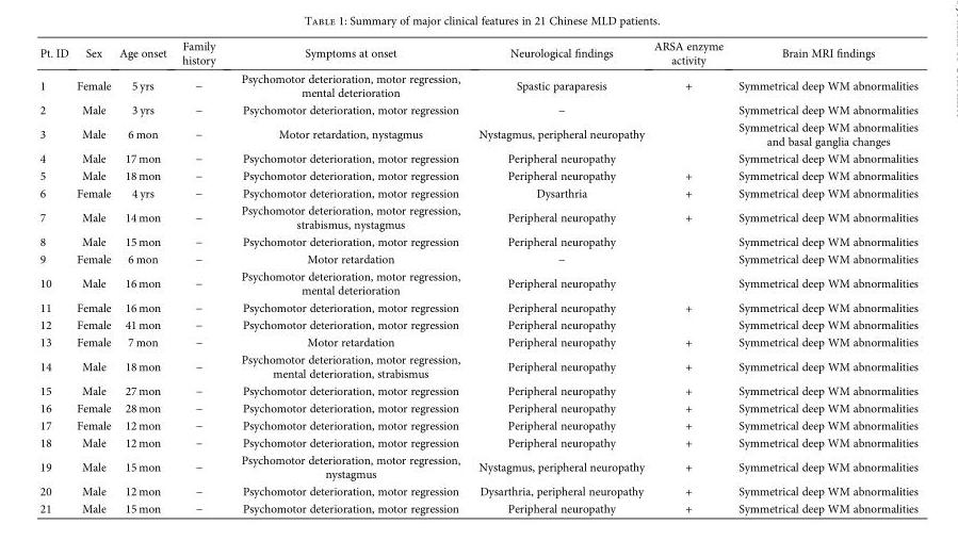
<table><thead><tr><td>Pt. ID</td><td>Sex</td><td>Age onset</td><td>Family history</td><td>Symptoms at onset</td><td>Neurological findings</td><td>ARSA enzyme activity</td><td>Brain MRI findings</td></tr></thead><tbody><tr><td>1</td><td>Female</td><td>5 yrs</td><td>−</td><td>Psychomotor deterioration, motor regression, mental deterioration</td><td>Spastic paraparesis</td><td>+</td><td>Symmetrical deep WM abnormalities</td></tr><tr><td>2</td><td>Male</td><td>3 yrs</td><td>−</td><td>Psychomotor deterioration, motor regression</td><td>−</td><td></td><td>Symmetrical deep WM abnormalities</td></tr><tr><td>3</td><td>Male</td><td>6 mon</td><td>−</td><td>Motor retardation, nystagmus</td><td>Nystagmus, peripheral neuropathy</td><td></td><td>Symmetrical deep WM abnormalities and basal ganglia changes</td></tr><tr><td>4</td><td>Male</td><td>17 mon</td><td>−</td><td>Psychomotor deterioration, motor regression</td><td>Peripheral neuropathy</td><td></td><td>Symmetrical deep WM abnormalities</td></tr><tr><td>5</td><td>Male</td><td>18 mon</td><td>−</td><td>Psychomotor deterioration, motor regression</td><td>Peripheral neuropathy</td><td>+</td><td>Symmetrical deep WM abnormalities</td></tr><tr><td>6</td><td>Female</td><td>4 yrs</td><td>−</td><td>Psychomotor deterioration, motor regression</td><td>Dysarthria</td><td>+</td><td>Symmetrical deep WM abnormalities</td></tr><tr><td>7</td><td>Male</td><td>14 mon</td><td>−</td><td>Psychomotor deterioration, motor regression, strabismus, nystagmus</td><td>Peripheral neuropathy</td><td>+</td><td>Symmetrical deep WM abnormalities</td></tr><tr><td>8</td><td>Male</td><td>15 mon</td><td>−</td><td>Psychomotor deterioration, motor regression</td><td>Peripheral neuropathy</td><td></td><td>Symmetrical deep WM abnormalities</td></tr><tr><td>9</td><td>Female</td><td>6 mon</td><td>−</td><td>Motor retardation</td><td>−</td><td></td><td>Symmetrical deep WM abnormalities</td></tr><tr><td>10</td><td>Male</td><td>16 mon</td><td>−</td><td>Psychomotor deterioration, motor regression, mental deterioration</td><td>Peripheral neuropathy</td><td></td><td>Symmetrical deep WM abnormalities</td></tr><tr><td>11</td><td>Female</td><td>16 mon</td><td>−</td><td>Psychomotor deterioration, motor regression</td><td>Peripheral neuropathy</td><td>+</td><td>Symmetrical deep WM abnormalities</td></tr><tr><td>12</td><td>Female</td><td>41 mon</td><td>−</td><td>Psychomotor deterioration, motor regression</td><td>Peripheral neuropathy</td><td></td><td>Symmetrical deep WM abnormalities</td></tr><tr><td>13</td><td>Female</td><td>7 mon</td><td>−</td><td>Motor retardation</td><td>Peripheral neuropathy</td><td>+</td><td>Symmetrical deep WM abnormalities</td></tr><tr><td>14</td><td>Male</td><td>18 mon</td><td>−</td><td>Psychomotor deterioration, motor regression, mental deterioration, strabismus</td><td>Peripheral neuropathy</td><td>+</td><td>Symmetrical deep WM abnormalities</td></tr><tr><td>15</td><td>Male</td><td>27 mon</td><td>−</td><td>Psychomotor deterioration, motor regression</td><td>Peripheral neuropathy</td><td>+</td><td>Symmetrical deep WM abnormalities</td></tr><tr><td>16</td><td>Female</td><td>28 mon</td><td>−</td><td>Psychomotor deterioration, motor regression</td><td>Peripheral neuropathy</td><td>+</td><td>Symmetrical deep WM abnormalities</td></tr><tr><td>17</td><td>Female</td><td>12 mon</td><td>−</td><td>Psychomotor deterioration, motor regression</td><td>Peripheral neuropathy</td><td>+</td><td>Symmetrical deep WM abnormalities</td></tr><tr><td>18</td><td>Male</td><td>12 mon</td><td>−</td><td>Psychomotor deterioration, motor regression</td><td>Peripheral neuropathy</td><td>+</td><td>Symmetrical deep WM abnormalities</td></tr><tr><td>19</td><td>Male</td><td>15 mon</td><td>−</td><td>Psychomotor deterioration, motor regression, nystagmus</td><td>Nystagmus, peripheral neuropathy</td><td>+</td><td>Symmetrical deep WM abnormalities</td></tr><tr><td>20</td><td>Male</td><td>12 mon</td><td>−</td><td>Psychomotor deterioration, motor regression</td><td>Dysarthria, peripheral neuropathy</td><td>+</td><td>Symmetrical deep WM abnormalities</td></tr><tr><td>21</td><td>Male</td><td>15 mon</td><td>−</td><td>Psychomotor deterioration, motor regression</td><td>Peripheral neuropathy</td><td>+</td><td>Symmetrical deep WM abnormalities</td></tr></tbody></table>